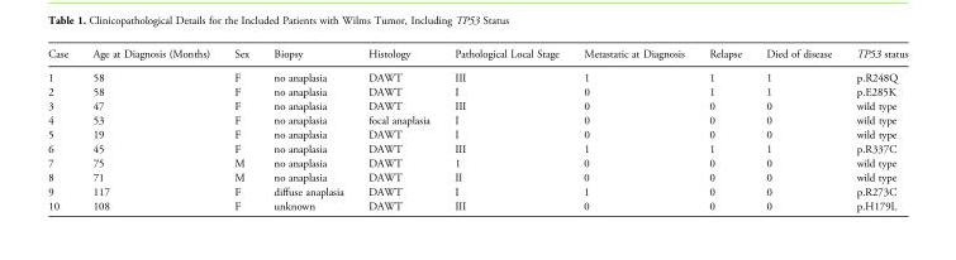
<table><thead><tr><td>Case</td><td>Age at Diagnosis (Months)</td><td>Sex</td><td>Biopsy</td><td>Histology</td><td>Pathological Local Stage</td><td>Metastatic at Diagnosis</td><td>Relapse</td><td>Died of disease</td><td>TP53 status</td></tr></thead><tbody><tr><td>1</td><td>58</td><td>F</td><td>no anaplasia</td><td>DAWT</td><td>III</td><td>1</td><td>1</td><td>1</td><td>p.R248Q</td></tr><tr><td>2</td><td>58</td><td>F</td><td>no anaplasia</td><td>DAWT</td><td>I</td><td>0</td><td>1</td><td>1</td><td>p.E285K</td></tr><tr><td>3</td><td>47</td><td>F</td><td>no anaplasia</td><td>DAWT</td><td>III</td><td>0</td><td>0</td><td>0</td><td>wild type</td></tr><tr><td>4</td><td>53</td><td>F</td><td>no anaplasia</td><td>focal anaplasia</td><td>I</td><td>0</td><td>0</td><td>0</td><td>wild type</td></tr><tr><td>5</td><td>19</td><td>F</td><td>no anaplasia</td><td>DAWT</td><td>I</td><td>0</td><td>0</td><td>0</td><td>wild type</td></tr><tr><td>6</td><td>45</td><td>F</td><td>no anaplasia</td><td>DAWT</td><td>III</td><td>1</td><td>1</td><td>1</td><td>p.R337C</td></tr><tr><td>7</td><td>75</td><td>M</td><td>no anaplasia</td><td>DAWT</td><td>1</td><td>0</td><td>0</td><td>0</td><td>wild type</td></tr><tr><td>8</td><td>71</td><td>M</td><td>no anaplasia</td><td>DAWT</td><td>II</td><td>0</td><td>0</td><td>0</td><td>wild type</td></tr><tr><td>9</td><td>117</td><td>F</td><td>diffuse anaplasia</td><td>DAWT</td><td>I</td><td>1</td><td>0</td><td>0</td><td>p.R273C</td></tr><tr><td>10</td><td>108</td><td>F</td><td>unknown</td><td>DAWT</td><td>III</td><td>0</td><td>0</td><td>0</td><td>p.H179L</td></tr></tbody></table>